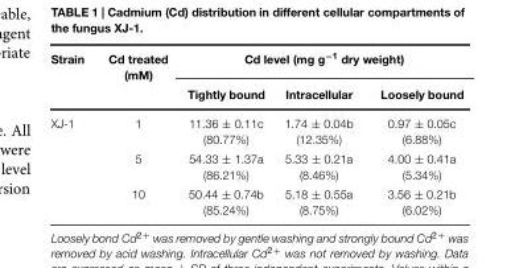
<table><thead><tr><td rowspan="2">Strain</td><td rowspan="2">Cd treated (mM)</td><td colspan="3">Cd level (mg g<sup>−1</sup> dry weight)</td></tr><tr><td>Tightly bound</td><td>Intracellular</td><td>Loosely bound</td></tr></thead><tbody><tr><td rowspan="3">XJ-1</td><td>1</td><td>11.36 ± 0.11c (80.77%)</td><td>1.74 ± 0.04b (12.35%)</td><td>0.97 ± 0.05c (6.88%)</td></tr><tr><td>5</td><td>54.33 ± 1.37a (86.21%)</td><td>5.33 ± 0.21a (8.46%)</td><td>4.00 ± 0.41a (5.34%)</td></tr><tr><td>10</td><td>50.44 ± 0.74b (85.24%)</td><td>5.18 ± 0.55a (8.75%)</td><td>3.56 ± 0.21b (6.02%)</td></tr></tbody></table>